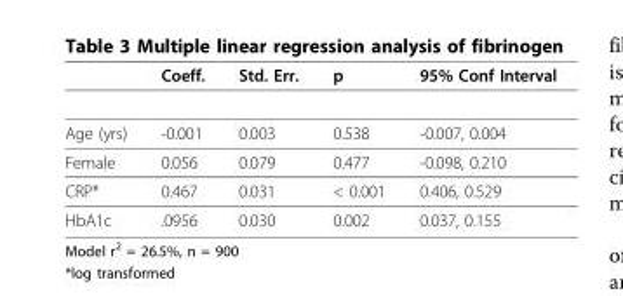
<table><thead><tr><td></td><td>Coeff.</td><td>Std. Err.</td><td>p</td><td>95% Conf Interval</td></tr></thead><tbody><tr><td>Age (yrs)</td><td>-0.001</td><td>0.003</td><td>0.538</td><td>-0.007, 0.004</td></tr><tr><td>Female</td><td>0.056</td><td>0.079</td><td>0.477</td><td>-0.098, 0.210</td></tr><tr><td>CRP*</td><td>0.467</td><td>0.031</td><td>&lt; 0.001</td><td>0.406, 0.529</td></tr><tr><td>HbA1c</td><td>.0956</td><td>0.030</td><td>0.002</td><td>0.037, 0.155</td></tr></tbody></table>